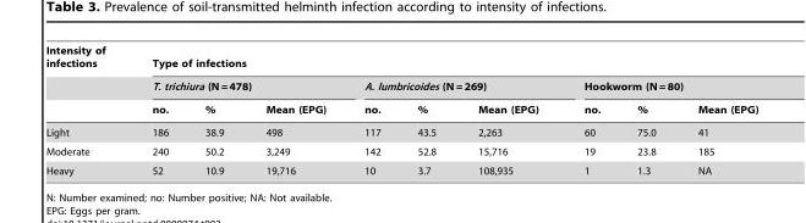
<table><thead><tr><td rowspan="3">Intensity of infections</td><td colspan="9">Type of infections</td></tr><tr><td colspan="3">T. trichiura (N = 478)</td><td colspan="3">A. lumbricoides (N = 269)</td><td colspan="3">Hookworm (N = 80)</td></tr><tr><td>no.</td><td>%</td><td>Mean (EPG)</td><td>no.</td><td>%</td><td>Mean (EPG)</td><td>no.</td><td>%</td><td>Mean (EPG)</td></tr></thead><tbody><tr><td>Light</td><td>186</td><td>38.9</td><td>498</td><td>117</td><td>43.5</td><td>2,263</td><td>60</td><td>75.0</td><td>41</td></tr><tr><td>Moderate</td><td>240</td><td>50.2</td><td>3,249</td><td>142</td><td>52.8</td><td>15,716</td><td>19</td><td>23.8</td><td>185</td></tr><tr><td>Heavy</td><td>52</td><td>10.9</td><td>19,716</td><td>10</td><td>3.7</td><td>108,935</td><td>1</td><td>1.3</td><td>NA</td></tr></tbody></table>